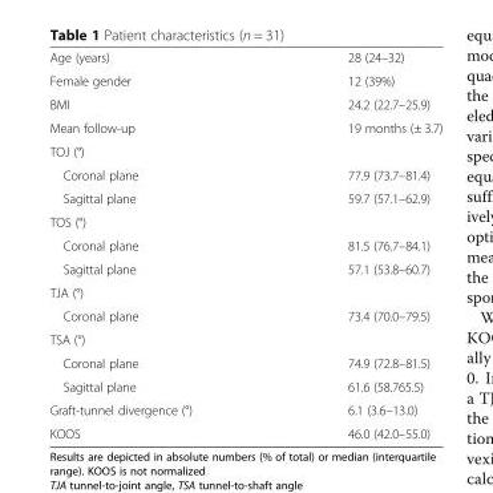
<table><tbody><tr><td>Age (years)</td><td>28 (24–32)</td></tr><tr><td>Female gender</td><td>12 (39%)</td></tr><tr><td>BMI</td><td>24.2 (22.7–25.9)</td></tr><tr><td>Mean follow-up</td><td>19 months (± 3.7)</td></tr><tr><td colspan="2">TOJ (°)</td></tr><tr><td>Coronal plane</td><td>77.9 (73.7–81.4)</td></tr><tr><td>Sagittal plane</td><td>59.7 (57.1–62.9)</td></tr><tr><td colspan="2">TOS (°)</td></tr><tr><td>Coronal plane</td><td>81.5 (76.7–84.1)</td></tr><tr><td>Sagittal plane</td><td>57.1 (53.8–60.7)</td></tr><tr><td colspan="2">TJA (°)</td></tr><tr><td>Coronal plane</td><td>73.4 (70.0–79.5)</td></tr><tr><td colspan="2">TSA (°)</td></tr><tr><td>Coronal plane</td><td>74.9 (72.8–81.5)</td></tr><tr><td>Sagittal plane</td><td>61.6 (58.765.5)</td></tr><tr><td>Graft-tunnel divergence (°)</td><td>6.1 (3.6–13.0)</td></tr><tr><td>KOOS</td><td>46.0 (42.0–55.0)</td></tr></tbody></table>